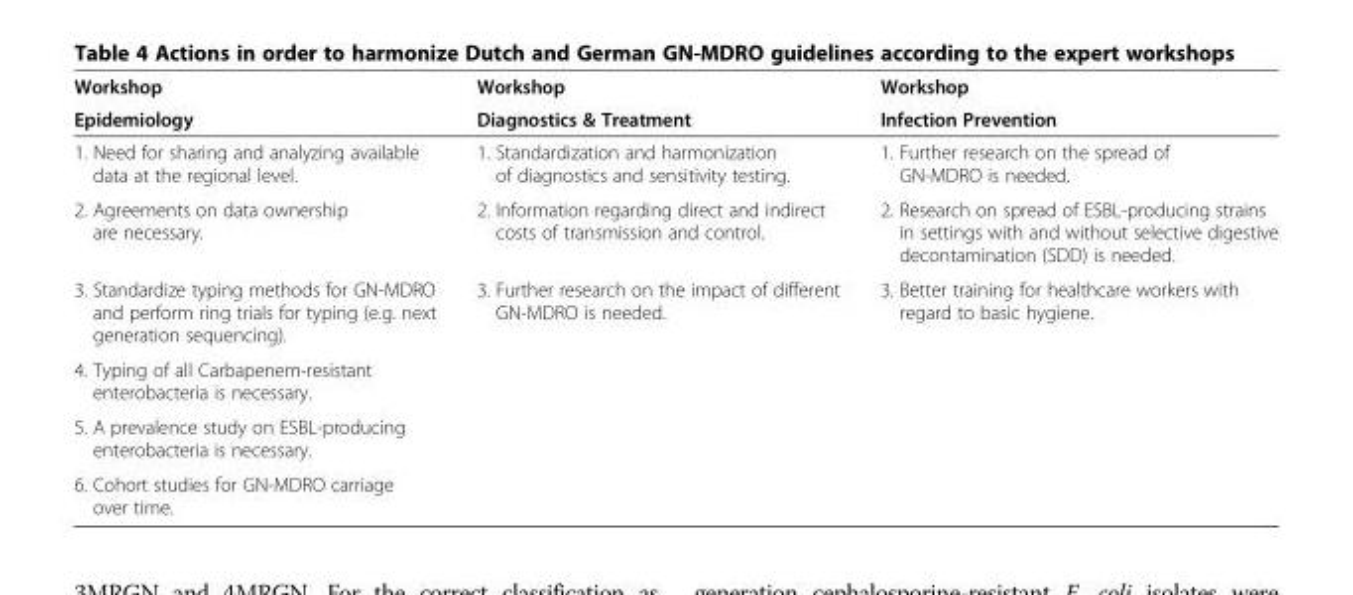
<table><thead><tr><td rowspan="2">Workshop Epidemiology</td><td rowspan="2">Workshop Diagnostics &amp; Treatment</td><td rowspan="2">Workshop Infection Prevention</td></tr><tr></tr></thead><tbody><tr><td>1. Need for sharing and analyzing available data at the regional level.</td><td>1. Standardization and harmonization of diagnostics and sensitivity testing.</td><td>1. Further research on the spread of GN-MDRO is needed.</td></tr><tr><td>2. Agreements on data ownership are necessary.</td><td>2. Information regarding direct and indirect costs of transmission and control.</td><td>2. Research on spread of ESBL-producing strains in settings with and without selective digestive decontamination (SDD) is needed.</td></tr><tr><td>3. Standardize typing methods for GN-MDRO and perform ring trials for typing (e.g. next generation sequencing).</td><td rowspan="4">3. Further research on the impact of different GN-MDRO is needed.</td><td rowspan="4">3. Better training for healthcare workers with regard to basic hygiene.</td></tr><tr><td>4. Typing of all Carbapenem-resistant enterobacteria is necessary.</td></tr><tr><td>5. A prevalence study on ESBL-producing enterobacteria is necessary.</td></tr><tr><td>6. Cohort studies for GN-MDRO carriage over time.</td></tr></tbody></table>